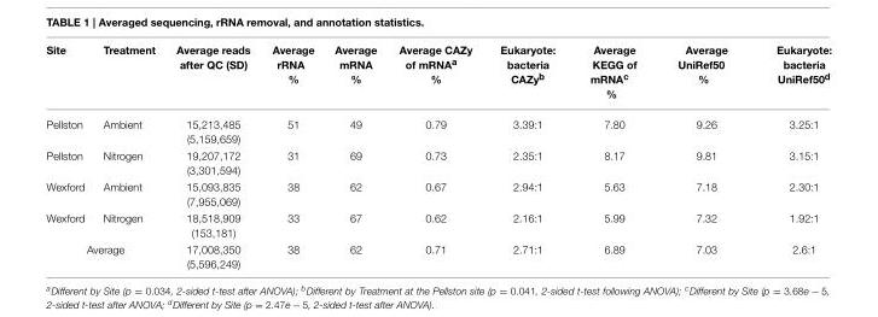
<table><thead><tr><td>Site</td><td>Treatment</td><td>Average reads after QC (SD)</td><td>Average rRNA %</td><td>Average mRNA %</td><td>Average CAZy of mRNA<sup>a</sup> %</td><td>Eukaryote: bacteria CAZy<sup>b</sup></td><td>Average KEGG of mRNA<sup>c</sup> %</td><td>Average UniRef50 %</td><td>Eukaryote: bacteria UniRef50<sup>d</sup></td></tr></thead><tbody><tr><td>Pellston</td><td>Ambient</td><td>15,213,485 (5,159,659)</td><td>51</td><td>49</td><td>0.79</td><td>3.39:1</td><td>7.80</td><td>9.26</td><td>3.25:1</td></tr><tr><td>Pellston</td><td>Nitrogen</td><td>19,207,172 (3,301,594)</td><td>31</td><td>69</td><td>0.73</td><td>2.35:1</td><td>8.17</td><td>9.81</td><td>3.15:1</td></tr><tr><td>Wexford</td><td>Ambient</td><td>15,093,835 (7,955,069)</td><td>38</td><td>62</td><td>0.67</td><td>2.94:1</td><td>5.63</td><td>7.18</td><td>2.30:1</td></tr><tr><td>Wexford</td><td>Nitrogen</td><td>18,518,909 (153,181)</td><td>33</td><td>67</td><td>0.62</td><td>2.16:1</td><td>5.99</td><td>7.32</td><td>1.92:1</td></tr><tr><td colspan="2">Average</td><td>17,008,350 (5,596,249)</td><td>38</td><td>62</td><td>0.71</td><td>2.71:1</td><td>6.89</td><td>7.03</td><td>2.6:1</td></tr></tbody></table>